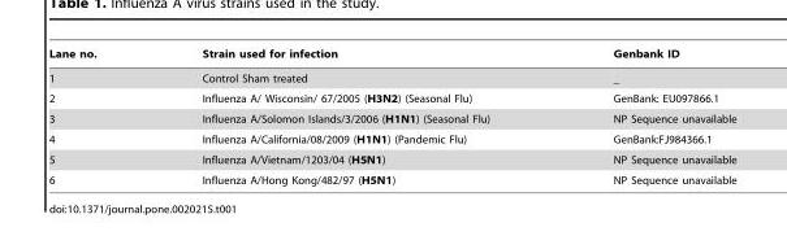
<table><thead><tr><td>Lane no.</td><td>Strain used for infection</td><td>Genbank ID</td></tr></thead><tbody><tr><td>1</td><td>Control Sham treated</td><td>_</td></tr><tr><td>2</td><td>Influenza A/ Wisconsin/ 67/2005 (H3N2) (Seasonal Flu)</td><td>GenBank: EU097866.1</td></tr><tr><td>3</td><td>Influenza A/Solomon Islands/3/2006 (H1N1) (Seasonal Flu)</td><td>NP Sequence unavailable</td></tr><tr><td>4</td><td>Influenza A/California/08/2009 (H1N1) (Pandemic Flu)</td><td>GenBank:FJ984366.1</td></tr><tr><td>5</td><td>Influenza A/Vietnam/1203/04 (H5N1)</td><td>NP Sequence unavailable</td></tr><tr><td>6</td><td>Influenza A/Hong Kong/482/97 (H5N1)</td><td>NP Sequence unavailable</td></tr></tbody></table>